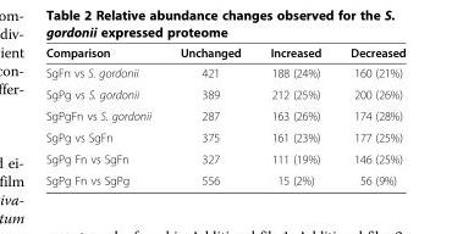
<table><thead><tr><td>Comparison</td><td>Unchanged</td><td>Increased</td><td>Decreased</td></tr></thead><tbody><tr><td>SgFn vs S. gordonii</td><td>421</td><td>188 (24%)</td><td>160 (21%)</td></tr><tr><td>SgPg vs S. gordonii</td><td>389</td><td>212 (25%)</td><td>200 (26%)</td></tr><tr><td>SgPgFn vs S. gordonii</td><td>287</td><td>163 (26%)</td><td>174 (28%)</td></tr><tr><td>SgPg vs SgFn</td><td>375</td><td>161 (23%)</td><td>177 (25%)</td></tr><tr><td>SgPg Fn vs SgFn</td><td>327</td><td>111 (19%)</td><td>146 (25%)</td></tr><tr><td>SgPg Fn vs SgPg</td><td>556</td><td>15 (2%)</td><td>56 (9%)</td></tr></tbody></table>